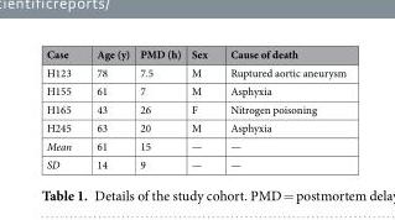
<table><thead><tr><td>Case</td><td>Age (y)</td><td>PMD (h)</td><td>Sex</td><td>Cause of death</td></tr></thead><tbody><tr><td>H123</td><td>78</td><td>7.5</td><td>M</td><td>Ruptured aortic aneurysm</td></tr><tr><td>H155</td><td>61</td><td>7</td><td>M</td><td>Asphyxia</td></tr><tr><td>H165</td><td>43</td><td>26</td><td>F</td><td>Nitrogen poisoning</td></tr><tr><td>H245</td><td>63</td><td>20</td><td>M</td><td>Asphyxia</td></tr><tr><td>Mean</td><td>61</td><td>15</td><td>—</td><td>—</td></tr><tr><td>SD</td><td>14</td><td>9</td><td>—</td><td>—</td></tr></tbody></table>